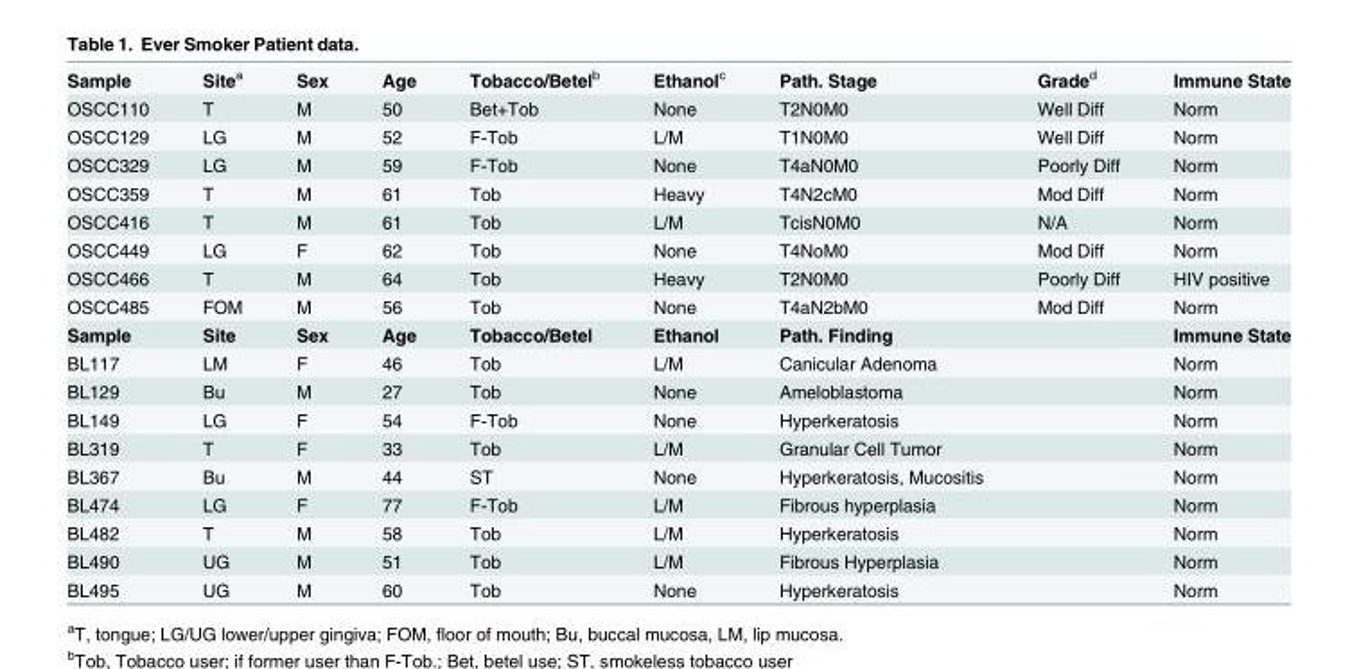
<table><tbody><tr><td>Sample</td><td>Site<sup>a</sup></td><td>Sex</td><td>Age</td><td>Tobacco/Betel<sup>b</sup></td><td>Ethanol<sup>c</sup></td><td>Path. Stage</td><td>Grade<sup>d</sup></td><td>Immune State</td></tr><tr><td>OSCC110</td><td>T</td><td>M</td><td>50</td><td>Bet+Tob</td><td>None</td><td>T2N0M0</td><td>Well Diff</td><td>Norm</td></tr><tr><td>OSCC129</td><td>LG</td><td>M</td><td>52</td><td>F-Tob</td><td>L/M</td><td>T1N0M0</td><td>Well Diff</td><td>Norm</td></tr><tr><td>OSCC329</td><td>LG</td><td>M</td><td>59</td><td>F-Tob</td><td>None</td><td>T4aN0M0</td><td>Poorly Diff</td><td>Norm</td></tr><tr><td>OSCC359</td><td>T</td><td>M</td><td>61</td><td>Tob</td><td>Heavy</td><td>T4N2cM0</td><td>Mod Diff</td><td>Norm</td></tr><tr><td>OSCC416</td><td>T</td><td>M</td><td>61</td><td>Tob</td><td>L/M</td><td>TcisN0M0</td><td>N/A</td><td>Norm</td></tr><tr><td>OSCC449</td><td>LG</td><td>F</td><td>62</td><td>Tob</td><td>None</td><td>T4NoM0</td><td>Mod Diff</td><td>Norm</td></tr><tr><td>OSCC466</td><td>T</td><td>M</td><td>64</td><td>Tob</td><td>Heavy</td><td>T2N0M0</td><td>Poorly Diff</td><td>HIV positive</td></tr><tr><td>OSCC485</td><td>FOM</td><td>M</td><td>56</td><td>Tob</td><td>None</td><td>T4aN2bM0</td><td>Mod Diff</td><td>Norm</td></tr><tr><td>Sample</td><td>Site</td><td>Sex</td><td>Age</td><td>Tobacco/Betel</td><td>Ethanol</td><td>Path. Finding</td><td></td><td>Immune State</td></tr><tr><td>BL117</td><td>LM</td><td>F</td><td>46</td><td>Tob</td><td>L/M</td><td>Canicular Adenoma</td><td></td><td>Norm</td></tr><tr><td>BL129</td><td>Bu</td><td>M</td><td>27</td><td>Tob</td><td>None</td><td>Ameloblastoma</td><td></td><td>Norm</td></tr><tr><td>BL149</td><td>LG</td><td>F</td><td>54</td><td>F-Tob</td><td>None</td><td>Hyperkeratosis</td><td></td><td>Norm</td></tr><tr><td>BL319</td><td>T</td><td>F</td><td>33</td><td>Tob</td><td>L/M</td><td>Granular Cell Tumor</td><td></td><td>Norm</td></tr><tr><td>BL367</td><td>Bu</td><td>M</td><td>44</td><td>ST</td><td>None</td><td>Hyperkeratosis, Mucositis</td><td></td><td>Norm</td></tr><tr><td>BL474</td><td>LG</td><td>F</td><td>77</td><td>F-Tob</td><td>L/M</td><td>Fibrous hyperplasia</td><td></td><td>Norm</td></tr><tr><td>BL482</td><td>T</td><td>M</td><td>58</td><td>Tob</td><td>L/M</td><td>Hyperkeratosis</td><td></td><td>Norm</td></tr><tr><td>BL490</td><td>UG</td><td>M</td><td>51</td><td>Tob</td><td>L/M</td><td>Fibrous Hyperplasia</td><td></td><td>Norm</td></tr><tr><td>BL495</td><td>UG</td><td>M</td><td>60</td><td>Tob</td><td>None</td><td>Hyperkeratosis</td><td></td><td>Norm</td></tr></tbody></table>